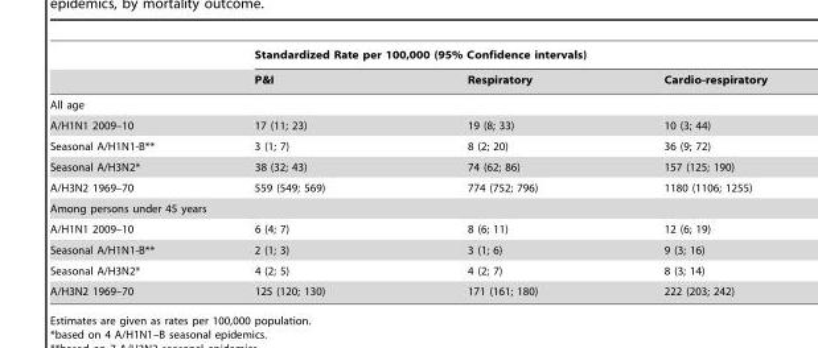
<table><thead><tr><td rowspan="2"></td><td colspan="3">Standardized Rate per 100,000 (95% Confidence intervals)</td></tr><tr><td>P&amp;I</td><td>Respiratory</td><td>Cardio-respiratory</td></tr></thead><tbody><tr><td colspan="4">All age</td></tr><tr><td>A/H1N1 2009–10</td><td>17 (11; 23)</td><td>19 (8; 33)</td><td>10 (3; 44)</td></tr><tr><td>Seasonal A/H1N1-B**</td><td>3 (1; 7)</td><td>8 (2; 20)</td><td>36 (9; 72)</td></tr><tr><td>Seasonal A/H3N2*</td><td>38 (32; 43)</td><td>74 (62; 86)</td><td>157 (125; 190)</td></tr><tr><td>A/H3N2 1969–70</td><td>559 (549; 569)</td><td>774 (752; 796)</td><td>1180 (1106; 1255)</td></tr><tr><td colspan="4">Among persons under 45 years</td></tr><tr><td>A/H1N1 2009–10</td><td>6 (4; 7)</td><td>8 (6; 11)</td><td>12 (6; 19)</td></tr><tr><td>Seasonal A/H1N1-B**</td><td>2 (1; 3)</td><td>3 (1; 6)</td><td>9 (3; 16)</td></tr><tr><td>Seasonal A/H3N2*</td><td>4 (2; 5)</td><td>4 (2; 7)</td><td>8 (3; 14)</td></tr><tr><td>A/H3N2 1969–70</td><td>125 (120; 130)</td><td>171 (161; 180)</td><td>222 (203; 242)</td></tr></tbody></table>